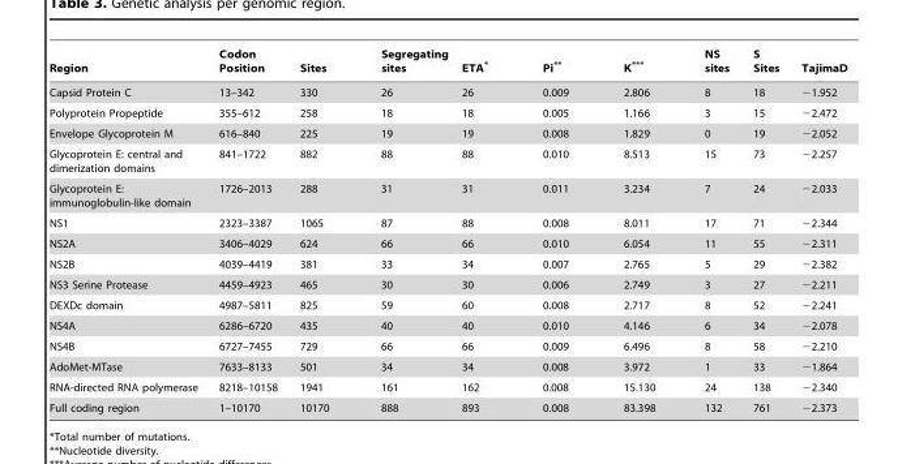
<table><thead><tr><td>Region</td><td>Codon Position</td><td>Sites</td><td>Segregating sites</td><td>ETA*</td><td>Pi**</td><td>K***</td><td>NS sites</td><td>S Sites</td><td>TajimaD</td></tr></thead><tbody><tr><td>Capsid Protein C</td><td>13–342</td><td>330</td><td>26</td><td>26</td><td>0.009</td><td>2.806</td><td>8</td><td>18</td><td>−1.952</td></tr><tr><td>Polyprotein Propeptide</td><td>355–612</td><td>258</td><td>18</td><td>18</td><td>0.005</td><td>1.166</td><td>3</td><td>15</td><td>−2.472</td></tr><tr><td>Envelope Glycoprotein M</td><td>616–840</td><td>225</td><td>19</td><td>19</td><td>0.008</td><td>1.829</td><td>0</td><td>19</td><td>−2.052</td></tr><tr><td>Glycoprotein E: central and dimerization domains</td><td>841–1722</td><td>882</td><td>88</td><td>88</td><td>0.010</td><td>8.513</td><td>15</td><td>73</td><td>−2.257</td></tr><tr><td>Glycoprotein E: immunoglobulin-like domain</td><td>1726–2013</td><td>288</td><td>31</td><td>31</td><td>0.011</td><td>3.234</td><td>7</td><td>24</td><td>−2.033</td></tr><tr><td>NS1</td><td>2323–3387</td><td>1065</td><td>87</td><td>88</td><td>0.008</td><td>8.011</td><td>17</td><td>71</td><td>−2.344</td></tr><tr><td>NS2A</td><td>3406–4029</td><td>624</td><td>66</td><td>66</td><td>0.010</td><td>6.054</td><td>11</td><td>55</td><td>−2.311</td></tr><tr><td>NS2B</td><td>4039–4419</td><td>381</td><td>33</td><td>34</td><td>0.007</td><td>2.765</td><td>5</td><td>29</td><td>−2.382</td></tr><tr><td>NS3 Serine Protease</td><td>4459–4923</td><td>465</td><td>30</td><td>30</td><td>0.006</td><td>2.749</td><td>3</td><td>27</td><td>−2.211</td></tr><tr><td>DEXDc domain</td><td>4987–5811</td><td>825</td><td>59</td><td>60</td><td>0.008</td><td>2.717</td><td>8</td><td>52</td><td>−2.241</td></tr><tr><td>NS4A</td><td>6286–6720</td><td>435</td><td>40</td><td>40</td><td>0.010</td><td>4.146</td><td>6</td><td>34</td><td>−2.078</td></tr><tr><td>NS4B</td><td>6727–7455</td><td>729</td><td>66</td><td>66</td><td>0.009</td><td>6.496</td><td>8</td><td>58</td><td>−2.210</td></tr><tr><td>AdoMet-MTase</td><td>7633–8133</td><td>501</td><td>34</td><td>34</td><td>0.008</td><td>3.972</td><td>1</td><td>33</td><td>−1.864</td></tr><tr><td>RNA-directed RNA polymerase</td><td>8218–10158</td><td>1941</td><td>161</td><td>162</td><td>0.008</td><td>15.130</td><td>24</td><td>138</td><td>−2.340</td></tr><tr><td>Full coding region</td><td>1–10170</td><td>10170</td><td>888</td><td>893</td><td>0.008</td><td>83.398</td><td>132</td><td>761</td><td>−2.373</td></tr></tbody></table>